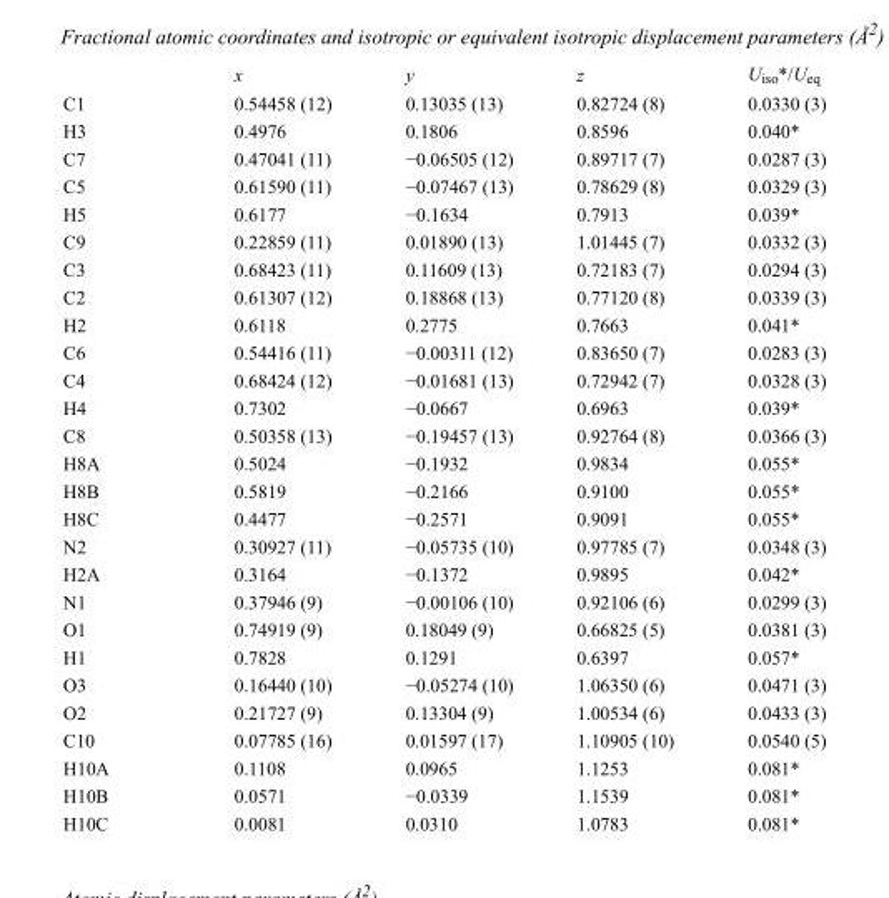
<table><thead><tr><td></td><td>x</td><td>y</td><td>z</td><td>U<sub>iso</sub>*/U<sub>eq</sub></td></tr></thead><tbody><tr><td>C1</td><td>0.54458 (12)</td><td>0.13035 (13)</td><td>0.82724 (8)</td><td>0.0330 (3)</td></tr><tr><td>H3</td><td>0.4976</td><td>0.1806</td><td>0.8596</td><td>0.040*</td></tr><tr><td>C7</td><td>0.47041 (11)</td><td>−0.06505 (12)</td><td>0.89717 (7)</td><td>0.0287 (3)</td></tr><tr><td>C5</td><td>0.61590 (11)</td><td>−0.07467 (13)</td><td>0.78629 (8)</td><td>0.0329 (3)</td></tr><tr><td>H5</td><td>0.6177</td><td>−0.1634</td><td>0.7913</td><td>0.039*</td></tr><tr><td>C9</td><td>0.22859 (11)</td><td>0.01890 (13)</td><td>1.01445 (7)</td><td>0.0332 (3)</td></tr><tr><td>C3</td><td>0.68423 (11)</td><td>0.11609 (13)</td><td>0.72183 (7)</td><td>0.0294 (3)</td></tr><tr><td>C2</td><td>0.61307 (12)</td><td>0.18868 (13)</td><td>0.77120 (8)</td><td>0.0339 (3)</td></tr><tr><td>H2</td><td>0.6118</td><td>0.2775</td><td>0.7663</td><td>0.041*</td></tr><tr><td>C6</td><td>0.54416 (11)</td><td>−0.00311 (12)</td><td>0.83650 (7)</td><td>0.0283 (3)</td></tr><tr><td>C4</td><td>0.68424 (12)</td><td>−0.01681 (13)</td><td>0.72942 (7)</td><td>0.0328 (3)</td></tr><tr><td>H4</td><td>0.7302</td><td>−0.0667</td><td>0.6963</td><td>0.039*</td></tr><tr><td>C8</td><td>0.50358 (13)</td><td>−0.19457 (13)</td><td>0.92764 (8)</td><td>0.0366 (3)</td></tr><tr><td>H8A</td><td>0.5024</td><td>−0.1932</td><td>0.9834</td><td>0.055*</td></tr><tr><td>H8B</td><td>0.5819</td><td>−0.2166</td><td>0.9100</td><td>0.055*</td></tr><tr><td>H8C</td><td>0.4477</td><td>−0.2571</td><td>0.9091</td><td>0.055*</td></tr><tr><td>N2</td><td>0.30927 (11)</td><td>−0.05735 (10)</td><td>0.97785 (7)</td><td>0.0348 (3)</td></tr><tr><td>H2A</td><td>0.3164</td><td>−0.1372</td><td>0.9895</td><td>0.042*</td></tr><tr><td>N1</td><td>0.37946 (9)</td><td>−0.00106 (10)</td><td>0.92106 (6)</td><td>0.0299 (3)</td></tr><tr><td>O1</td><td>0.74919 (9)</td><td>0.18049 (9)</td><td>0.66825 (5)</td><td>0.0381 (3)</td></tr><tr><td>H1</td><td>0.7828</td><td>0.1291</td><td>0.6397</td><td>0.057*</td></tr><tr><td>O3</td><td>0.16440 (10)</td><td>−0.05274 (10)</td><td>1.06350 (6)</td><td>0.0471 (3)</td></tr><tr><td>O2</td><td>0.21727 (9)</td><td>0.13304 (9)</td><td>1.00534 (6)</td><td>0.0433 (3)</td></tr><tr><td>C10</td><td>0.07785 (16)</td><td>0.01597 (17)</td><td>1.10905 (10)</td><td>0.0540 (5)</td></tr><tr><td>H10A</td><td>0.1108</td><td>0.0965</td><td>1.1253</td><td>0.081*</td></tr><tr><td>H10B</td><td>0.0571</td><td>−0.0339</td><td>1.1539</td><td>0.081*</td></tr><tr><td>H10C</td><td>0.0081</td><td>0.0310</td><td>1.0783</td><td>0.081*</td></tr></tbody></table>